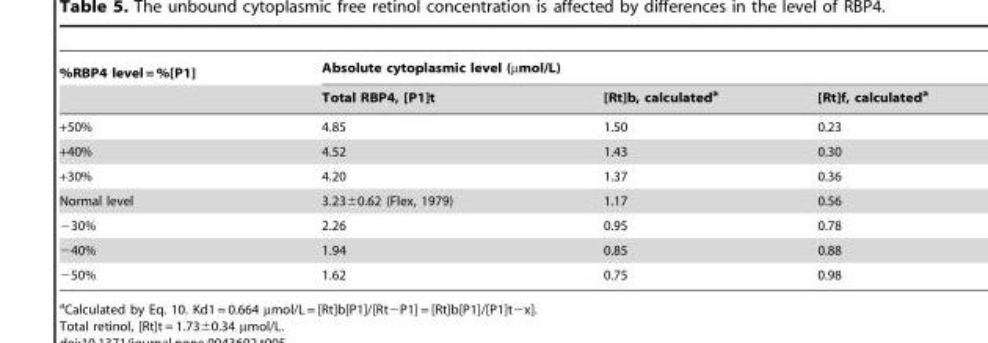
<table><thead><tr><td rowspan="2">%RBP4 level = %[P1]</td><td colspan="3">Absolute cytoplasmic level (µmol/L)</td></tr><tr><td>Total RBP4, [P1]t</td><td>[Rt]b, calculated<sup>a</sup></td><td>[Rt]f, calculated<sup>a</sup></td></tr></thead><tbody><tr><td>+50%</td><td>4.85</td><td>1.50</td><td>0.23</td></tr><tr><td>+40%</td><td>4.52</td><td>1.43</td><td>0.30</td></tr><tr><td>+30%</td><td>4.20</td><td>1.37</td><td>0.36</td></tr><tr><td>Normal level</td><td>3.23±0.62 (Flex, 1979)</td><td>1.17</td><td>0.56</td></tr><tr><td>−30%</td><td>2.26</td><td>0.95</td><td>0.78</td></tr><tr><td>−40%</td><td>1.94</td><td>0.85</td><td>0.88</td></tr><tr><td>−50%</td><td>1.62</td><td>0.75</td><td>0.98</td></tr></tbody></table>